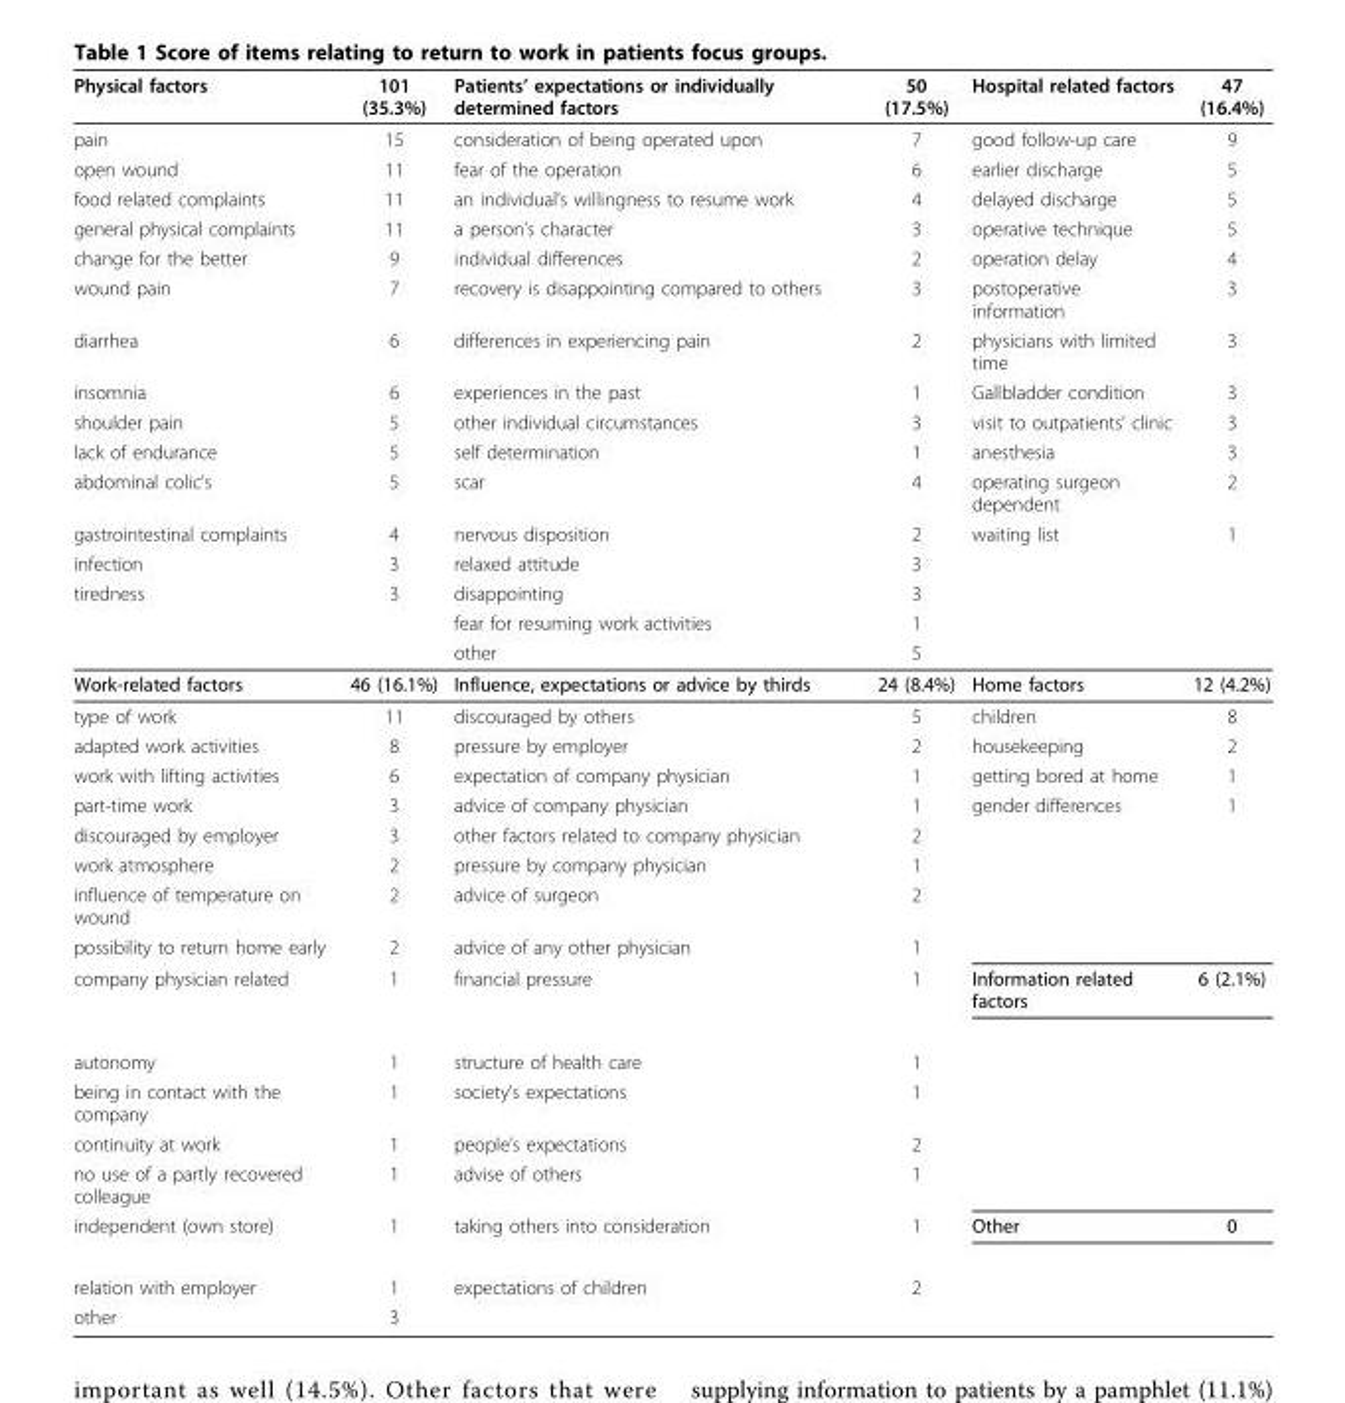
<table><thead><tr><td>Physical factors</td><td>101 (35.3%)</td><td>Patients’ expectations or individually determined factors</td><td>50 (17.5%)</td><td>Hospital related factors</td><td>47 (16.4%)</td></tr></thead><tbody><tr><td>pain</td><td>15</td><td>consideration of being operated upon</td><td>7</td><td>good follow-up care</td><td>9</td></tr><tr><td>open wound</td><td>11</td><td>fear of the operation</td><td>6</td><td>earlier discharge</td><td>5</td></tr><tr><td>food related complaints</td><td>11</td><td>an individual’s willingness to resume work</td><td>4</td><td>delayed discharge</td><td>5</td></tr><tr><td>general physical complaints</td><td>11</td><td>a person’s character</td><td>3</td><td>operative technique</td><td>5</td></tr><tr><td>change for the better</td><td>9</td><td>individual differences</td><td>2</td><td>operation delay</td><td>4</td></tr><tr><td>wound pain</td><td>7</td><td>recovery is disappointing compared to others</td><td>3</td><td>postoperative information</td><td>3</td></tr><tr><td>diarrhea</td><td>6</td><td>differences in experiencing pain</td><td>2</td><td>physicians with limited time</td><td>3</td></tr><tr><td>insomnia</td><td>6</td><td>experiences in the past</td><td>1</td><td>Gallbladder condition</td><td>3</td></tr><tr><td>shoulder pain</td><td>5</td><td>other individual circumstances</td><td>3</td><td>visit to outpatients’ clinic</td><td>3</td></tr><tr><td>lack of endurance</td><td>5</td><td>self determination</td><td>1</td><td>anesthesia</td><td>3</td></tr><tr><td>abdominal colic’s</td><td>5</td><td>scar</td><td>4</td><td>operating surgeon dependent</td><td>2</td></tr><tr><td>gastrointestinal complaints</td><td>4</td><td>nervous disposition</td><td>2</td><td>waiting list</td><td>1</td></tr><tr><td>infection</td><td>3</td><td>relaxed attitude</td><td>3</td><td></td><td></td></tr><tr><td rowspan="3">tiredness</td><td>3</td><td>disappointing</td><td>3</td><td></td><td></td></tr><tr><td></td><td>fear for resuming work activities</td><td>1</td><td></td><td></td></tr><tr><td></td><td>other</td><td>5</td><td></td><td></td></tr><tr><td>Work-related factors</td><td>46 (16.1%)</td><td>Influence, expectations or advice by thirds</td><td>24 (8.4%)</td><td>Home factors</td><td>12 (4.2%)</td></tr><tr><td>type of work</td><td>11</td><td>discouraged by others</td><td>5</td><td>children</td><td>8</td></tr><tr><td>adapted work activities</td><td>8</td><td>pressure by employer</td><td>2</td><td>housekeeping</td><td>2</td></tr><tr><td>work with lifting activities</td><td>6</td><td>expectation of company physician</td><td>1</td><td>getting bored at home</td><td>1</td></tr><tr><td>part-time work</td><td>3</td><td>advice of company physician</td><td>1</td><td>gender differences</td><td>1</td></tr><tr><td>discouraged by employer</td><td>3</td><td>other factors related to company physician</td><td>2</td><td></td><td></td></tr><tr><td>work atmosphere</td><td>2</td><td>pressure by company physician</td><td>1</td><td></td><td></td></tr><tr><td>influence of temperature on wound</td><td>2</td><td>advice of surgeon</td><td>2</td><td></td><td></td></tr><tr><td>possibility to return home early</td><td>2</td><td>advice of any other physician</td><td>1</td><td></td><td></td></tr><tr><td>company physician related</td><td>1</td><td>financial pressure</td><td>1</td><td>Information related factors</td><td>6 (2.1%)</td></tr><tr><td>autonomy</td><td>1</td><td>structure of health care</td><td>1</td><td></td><td></td></tr><tr><td>being in contact with the company</td><td>1</td><td>society’s expectations</td><td>1</td><td></td><td></td></tr><tr><td>continuity at work</td><td>1</td><td>people’s expectations</td><td>2</td><td></td><td></td></tr><tr><td>no use of a partly recovered colleague</td><td>1</td><td>advise of others</td><td>1</td><td></td><td></td></tr><tr><td>independent (own store)</td><td>1</td><td>taking others into consideration</td><td>1</td><td>Other</td><td>0</td></tr><tr><td>relation with employer</td><td>1</td><td>expectations of children</td><td>2</td><td></td><td></td></tr><tr><td>other</td><td>3</td><td></td><td></td><td></td><td></td></tr></tbody></table>